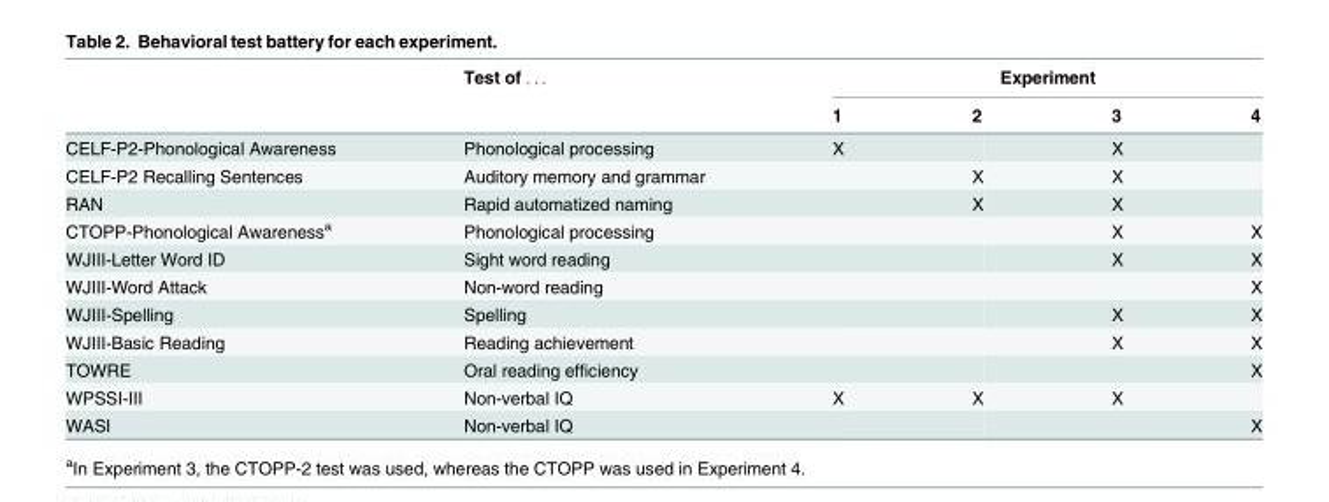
<table><thead><tr><td rowspan="2"></td><td rowspan="2">Test of . . .</td><td colspan="4">Experiment</td></tr><tr><td>1</td><td>2</td><td>3</td><td>4</td></tr></thead><tbody><tr><td>CELF-P2-Phonological Awareness</td><td>Phonological processing</td><td>X</td><td></td><td>X</td><td></td></tr><tr><td>CELF-P2 Recalling Sentences</td><td>Auditory memory and grammar</td><td></td><td>X</td><td>X</td><td></td></tr><tr><td>RAN</td><td>Rapid automatized naming</td><td></td><td>X</td><td>X</td><td></td></tr><tr><td>CTOPP-Phonological Awareness<sup>a</sup></td><td>Phonological processing</td><td></td><td></td><td>X</td><td>X</td></tr><tr><td>WJIII-Letter Word ID</td><td>Sight word reading</td><td></td><td></td><td>X</td><td>X</td></tr><tr><td>WJIII-Word Attack</td><td>Non-word reading</td><td></td><td></td><td></td><td>X</td></tr><tr><td>WJIII-Spelling</td><td>Spelling</td><td></td><td></td><td>X</td><td>X</td></tr><tr><td>WJIII-Basic Reading</td><td>Reading achievement</td><td></td><td></td><td>X</td><td>X</td></tr><tr><td>TOWRE</td><td>Oral reading efficiency</td><td></td><td></td><td></td><td>X</td></tr><tr><td>WPSSI-III</td><td>Non-verbal IQ</td><td>X</td><td>X</td><td>X</td><td></td></tr><tr><td>WASI</td><td>Non-verbal IQ</td><td></td><td></td><td></td><td>X</td></tr></tbody></table>